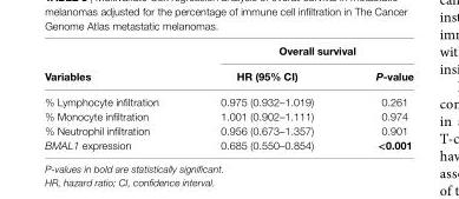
<table><thead><tr><td rowspan="2">Variables</td><td colspan="2">Overall survival</td></tr><tr><td>hr (95% ci)</td><td>P-value</td></tr></thead><tbody><tr><td>% Lymphocyte infiltration</td><td>0.975 (0.932–1.019)</td><td>0.261</td></tr><tr><td>% Monocyte infiltration</td><td>1.001 (0.902–1.111)</td><td>0.974</td></tr><tr><td>% Neutrophil infiltration</td><td>0.956 (0.673–1.357)</td><td>0.901</td></tr><tr><td>BMAL1 expression</td><td>0.685 (0.550–0.854)</td><td>&lt;0.001</td></tr></tbody></table>